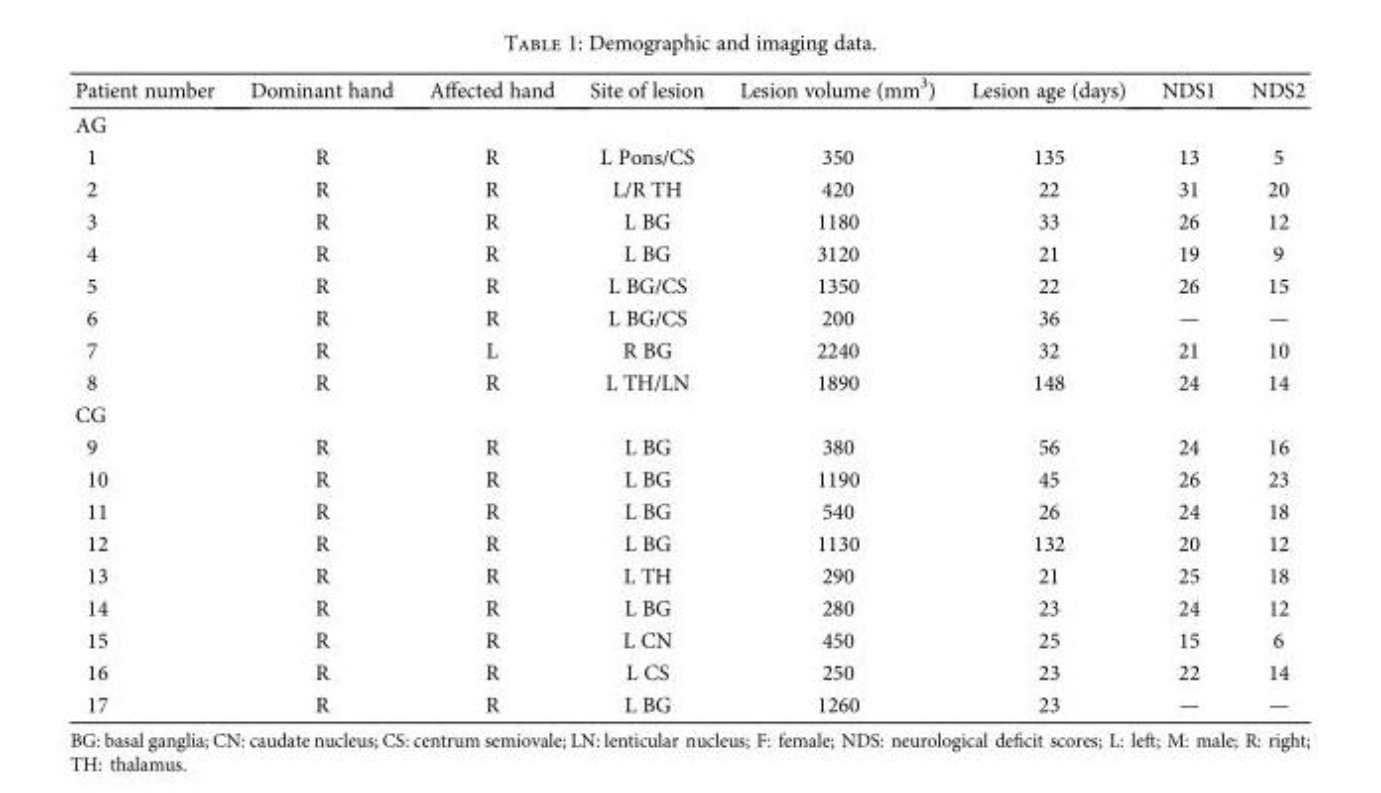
<table><thead><tr><td>Patient number</td><td>Dominant hand</td><td>Affected hand</td><td>Site of lesion</td><td>Lesion volume (mm<sup>3</sup>)</td><td>Lesion age (days)</td><td>NDS1</td><td>NDS2</td></tr></thead><tbody><tr><td colspan="8">AG</td></tr><tr><td>1</td><td>R</td><td>R</td><td>L Pons/CS</td><td>350</td><td>135</td><td>13</td><td>5</td></tr><tr><td>2</td><td>R</td><td>R</td><td>L/R TH</td><td>420</td><td>22</td><td>31</td><td>20</td></tr><tr><td>3</td><td>R</td><td>R</td><td>L BG</td><td>1180</td><td>33</td><td>26</td><td>12</td></tr><tr><td>4</td><td>R</td><td>R</td><td>L BG</td><td>3120</td><td>21</td><td>19</td><td>9</td></tr><tr><td>5</td><td>R</td><td>R</td><td>L BG/CS</td><td>1350</td><td>22</td><td>26</td><td>15</td></tr><tr><td>6</td><td>R</td><td>R</td><td>L BG/CS</td><td>200</td><td>36</td><td>—</td><td>—</td></tr><tr><td>7</td><td>R</td><td>L</td><td>R BG</td><td>2240</td><td>32</td><td>21</td><td>10</td></tr><tr><td>8</td><td>R</td><td>R</td><td>L TH/LN</td><td>1890</td><td>148</td><td>24</td><td>14</td></tr><tr><td colspan="8">CG</td></tr><tr><td>9</td><td>R</td><td>R</td><td>L BG</td><td>380</td><td>56</td><td>24</td><td>16</td></tr><tr><td>10</td><td>R</td><td>R</td><td>L BG</td><td>1190</td><td>45</td><td>26</td><td>23</td></tr><tr><td>11</td><td>R</td><td>R</td><td>L BG</td><td>540</td><td>26</td><td>24</td><td>18</td></tr><tr><td>12</td><td>R</td><td>R</td><td>L BG</td><td>1130</td><td>132</td><td>20</td><td>12</td></tr><tr><td>13</td><td>R</td><td>R</td><td>L TH</td><td>290</td><td>21</td><td>25</td><td>18</td></tr><tr><td>14</td><td>R</td><td>R</td><td>L BG</td><td>280</td><td>23</td><td>24</td><td>12</td></tr><tr><td>15</td><td>R</td><td>R</td><td>L CN</td><td>450</td><td>25</td><td>15</td><td>6</td></tr><tr><td>16</td><td>R</td><td>R</td><td>L CS</td><td>250</td><td>23</td><td>22</td><td>14</td></tr><tr><td>17</td><td>R</td><td>R</td><td>L BG</td><td>1260</td><td>23</td><td>—</td><td>—</td></tr></tbody></table>